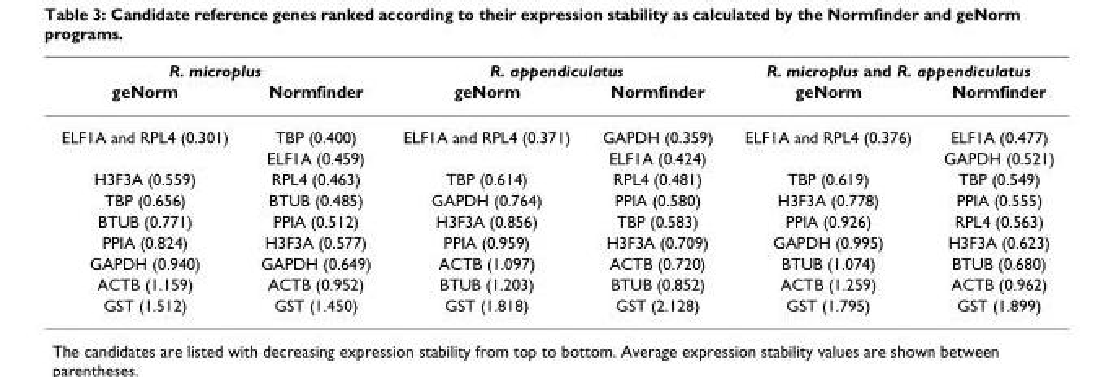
<table><thead><tr><td colspan="2">R. microplus</td><td colspan="2">R. appendiculatus</td><td colspan="2">R. microplus and R. appendiculatus</td></tr><tr><td>geNorm</td><td>Normfinder</td><td>geNorm</td><td>Normfinder</td><td>geNorm</td><td>Normfinder</td></tr></thead><tbody><tr><td rowspan="2">ELF1A and RPL4 (0.301)</td><td>TBP (0.400)</td><td>ELF1A and RPL4 (0.371)</td><td>GAPDH (0.359)</td><td>ELF1A and RPL4 (0.376)</td><td>ELF1A (0.477)</td></tr><tr><td>ELF1A (0.459)</td><td></td><td>ELF1A (0.424)</td><td></td><td>GAPDH (0.521)</td></tr><tr><td>H3F3A (0.559)</td><td>RPL4 (0.463)</td><td>TBP (0.614)</td><td>RPL4 (0.481)</td><td>TBP (0.619)</td><td>TBP (0.549)</td></tr><tr><td>TBP (0.656)</td><td>BTUB (0.485)</td><td>GAPDH (0.764)</td><td>PPIA (0.580)</td><td>H3F3A (0.778)</td><td>PPIA (0.555)</td></tr><tr><td>BTUB (0.771)</td><td>PPIA (0.512)</td><td>H3F3A (0.856)</td><td>TBP (0.583)</td><td>PPIA (0.926)</td><td>RPL4 (0.563)</td></tr><tr><td>PPIA (0.824)</td><td>H3F3A (0.577)</td><td>PPIA (0.959)</td><td>H3F3A (0.709)</td><td>GAPDH (0.995)</td><td>H3F3A (0.623)</td></tr><tr><td>GAPDH (0.940)</td><td>GAPDH (0.649)</td><td>ACTB (1.097)</td><td>ACTB (0.720)</td><td>BTUB (1.074)</td><td>BTUB (0.680)</td></tr><tr><td>ACTB (1.159)</td><td>ACTB (0.952)</td><td>BTUB (1.203)</td><td>BTUB (0.852)</td><td>ACTB (1.259)</td><td>ACTB (0.962)</td></tr><tr><td>GST (1.512)</td><td>GST (1.450)</td><td>GST (1.818)</td><td>GST (2.128)</td><td>GST (1.795)</td><td>GST (1.899)</td></tr></tbody></table>